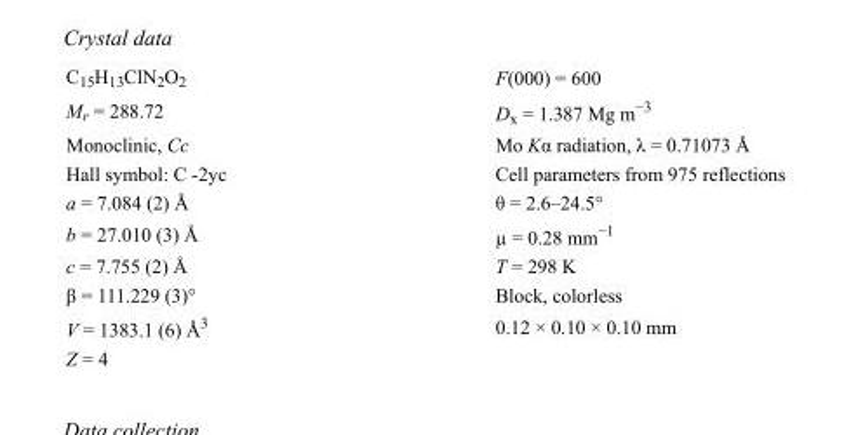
<table><tbody><tr><td>C<sub>15</sub>H<sub>13</sub>ClN<sub>2</sub>O<sub>2</sub></td><td>F(000) = 600</td></tr><tr><td>M<sub>r</sub> = 288.72</td><td>D<sub>x</sub> = 1.387 Mg m<sup>−3</sup></td></tr><tr><td>Monoclinic, Cc</td><td>Mo Kα radiation, λ = 0.71073 Å</td></tr><tr><td>Hall symbol: C -2yc</td><td>Cell parameters from 975 reflections</td></tr><tr><td>a = 7.084 (2) Å</td><td>θ = 2.6–24.5°</td></tr><tr><td>b = 27.010 (3) Å</td><td>µ = 0.28 mm<sup>−1</sup></td></tr><tr><td>c = 7.755 (2) Å</td><td>T = 298 K</td></tr><tr><td>β = 111.229 (3)°</td><td>Block, colorless</td></tr><tr><td>V = 1383.1 (6) Å<sup>3</sup></td><td>0.12 × 0.10 × 0.10 mm</td></tr><tr><td>Z = 4</td><td></td></tr></tbody></table>